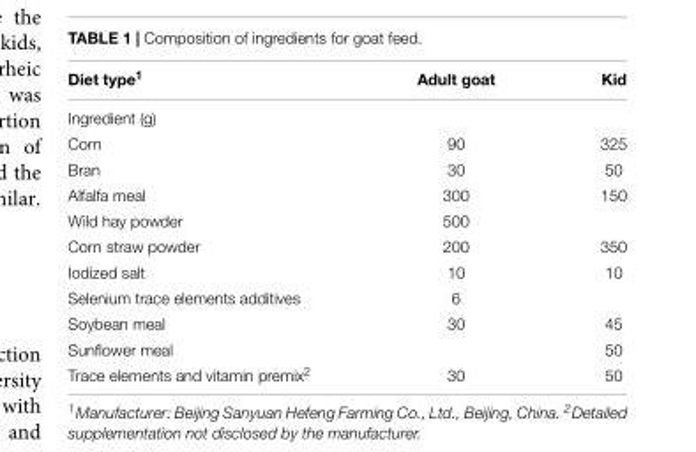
<table><thead><tr><td>Diet type<sup>1</sup></td><td>Adult goat</td><td>Kid</td></tr></thead><tbody><tr><td colspan="3">Ingredient (g)</td></tr><tr><td>Corn</td><td>90</td><td>325</td></tr><tr><td>Bran</td><td>30</td><td>50</td></tr><tr><td>Alfalfa meal</td><td>300</td><td>150</td></tr><tr><td>Wild hay powder</td><td>500</td><td></td></tr><tr><td>Corn straw powder</td><td>200</td><td>350</td></tr><tr><td>Iodized salt</td><td>10</td><td>10</td></tr><tr><td>Selenium trace elements additives</td><td>6</td><td></td></tr><tr><td>Soybean meal</td><td>30</td><td>45</td></tr><tr><td>Sunflower meal</td><td></td><td>50</td></tr><tr><td>Trace elements and vitamin premix<sup>2</sup></td><td>30</td><td>50</td></tr></tbody></table>